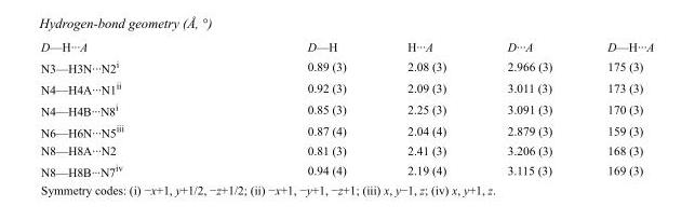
<table><tbody><tr><td>D—H···A</td><td>D—H</td><td>H···A</td><td>D···A</td><td>D—H···A</td></tr><tr><td>N3—H3N···N2<sup>i</sup></td><td>0.89 (3)</td><td>2.08 (3)</td><td>2.966 (3)</td><td>175 (3)</td></tr><tr><td>N4—H4A···N1<sup>ii</sup></td><td>0.92 (3)</td><td>2.09 (3)</td><td>3.011 (3)</td><td>173 (3)</td></tr><tr><td>N4—H4B···N8<sup>i</sup></td><td>0.85 (3)</td><td>2.25 (3)</td><td>3.091 (3)</td><td>170 (3)</td></tr><tr><td>N6—H6N···N5<sup>iii</sup></td><td>0.87 (4)</td><td>2.04 (4)</td><td>2.879 (3)</td><td>159 (3)</td></tr><tr><td>N8—H8A···N2</td><td>0.81 (3)</td><td>2.41 (3)</td><td>3.206 (3)</td><td>168 (3)</td></tr><tr><td>N8—H8B···N7<sup>iv</sup></td><td>0.94 (4)</td><td>2.19 (4)</td><td>3.115 (3)</td><td>169 (3)</td></tr></tbody></table>